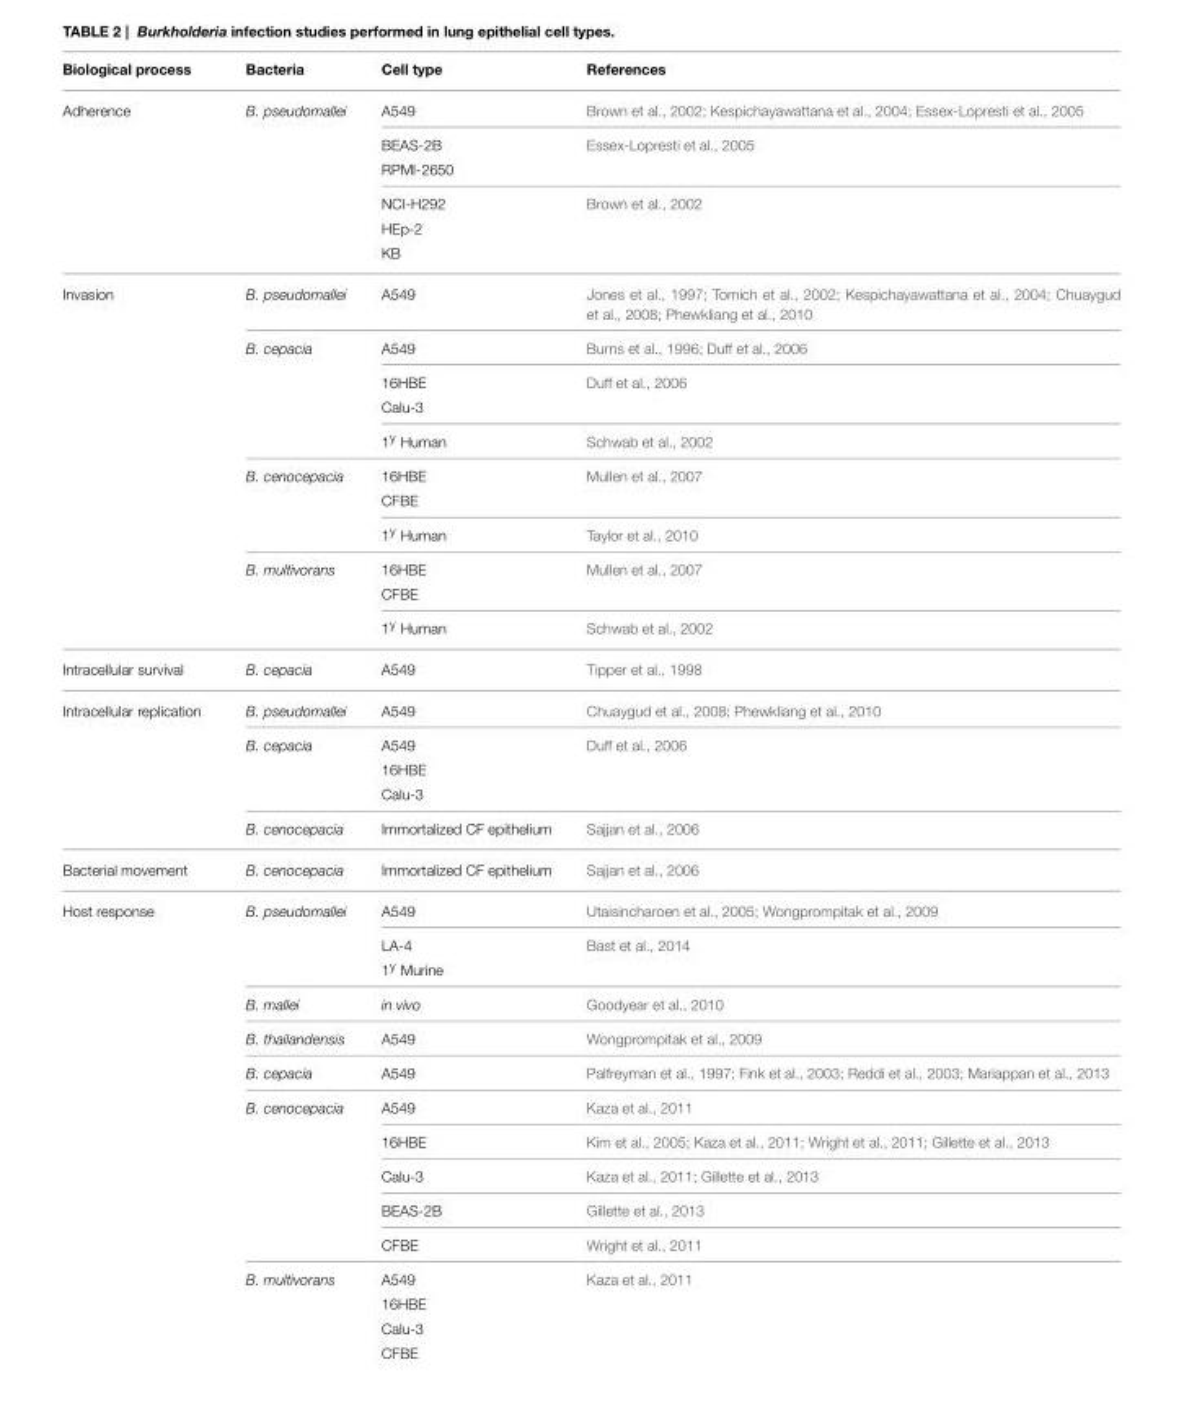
<table><thead><tr><td>Biological process</td><td>Bacteria</td><td>Cell type</td><td>References</td></tr></thead><tbody><tr><td rowspan="6">Adherence</td><td>B. pseudomallei</td><td>A549</td><td>Brown et al., 2002; Kespichayawattana et al., 2004; Essex-Lopresti et al., 2005</td></tr><tr><td></td><td>BEAS-2B</td><td>Essex-Lopresti et al., 2005</td></tr><tr><td></td><td>RPMI-2650</td><td></td></tr><tr><td></td><td>NCI-H292</td><td>Brown et al., 2002</td></tr><tr><td></td><td>HEp-2</td><td></td></tr><tr><td></td><td>KB</td><td></td></tr><tr><td rowspan="11">Invasion</td><td>B. pseudomallei</td><td>A549</td><td>Jones et al., 1997; Tomich et al., 2002; Kespichayawattana et al., 2004; Chuaygud et al., 2008; Phewkliang et al., 2010</td></tr><tr><td>B. cepacia</td><td>A549</td><td>Burns et al., 1996; Duff et al., 2006</td></tr><tr><td></td><td>16HBE</td><td>Duff et al., 2006</td></tr><tr><td></td><td>Calu-3</td><td></td></tr><tr><td></td><td>1<sup>y</sup> Human</td><td>Schwab et al., 2002</td></tr><tr><td>B. cenocepacia</td><td>16HBE</td><td>Mullen et al., 2007</td></tr><tr><td></td><td>CFBE</td><td></td></tr><tr><td></td><td>1<sup>y</sup> Human</td><td>Taylor et al., 2010</td></tr><tr><td>B. multivorans</td><td>16HBE</td><td>Mullen et al., 2007</td></tr><tr><td></td><td>CFBE</td><td></td></tr><tr><td></td><td>1<sup>y</sup> Human</td><td>Schwab et al., 2002</td></tr><tr><td>Intracellular survival</td><td>B. cepacia</td><td>A549</td><td>Tipper et al., 1998</td></tr><tr><td rowspan="5">Intracellular replication</td><td>B. pseudomallei</td><td>A549</td><td>Chuaygud et al., 2008; Phewkliang et al., 2010</td></tr><tr><td>B. cepacia</td><td>A549</td><td>Duff et al., 2006</td></tr><tr><td></td><td>16HBE</td><td></td></tr><tr><td></td><td>Calu-3</td><td></td></tr><tr><td>B. cenocepacia</td><td>Immortalized CF epithelium</td><td>Sajjan et al., 2006</td></tr><tr><td>Bacterial movement</td><td>B. cenocepacia</td><td>Immortalized CF epithelium</td><td>Sajjan et al., 2006</td></tr><tr><td rowspan="15">Host response</td><td>B. pseudomallei</td><td>A549</td><td>Utaisincharoen et al., 2005; Wongprompitak et al., 2009</td></tr><tr><td></td><td>LA-4</td><td>Bast et al., 2014</td></tr><tr><td></td><td>1<sup>y</sup> Murine</td><td></td></tr><tr><td>B. mallei</td><td>in vivo</td><td>Goodyear et al., 2010</td></tr><tr><td>B. thailandensis</td><td>A549</td><td>Wongprompitak et al., 2009</td></tr><tr><td>B. cepacia</td><td>A549</td><td>Palfreyman et al., 1997; Fink et al., 2003; Reddi et al., 2003; Mariappan et al., 2013</td></tr><tr><td>B. cenocepacia</td><td>A549</td><td>Kaza et al., 2011</td></tr><tr><td></td><td>16HBE</td><td>Kim et al., 2005; Kaza et al., 2011; Wright et al., 2011; Gillette et al., 2013</td></tr><tr><td></td><td>Calu-3</td><td>Kaza et al., 2011; Gillette et al., 2013</td></tr><tr><td></td><td>BEAS-2B</td><td>Gillette et al., 2013</td></tr><tr><td></td><td>CFBE</td><td>Wright et al., 2011</td></tr><tr><td>B. multivorans</td><td>A549</td><td>Kaza et al., 2011</td></tr><tr><td></td><td>16HBE</td><td></td></tr><tr><td></td><td>Calu-3</td><td></td></tr><tr><td></td><td>CFBE</td><td></td></tr></tbody></table>